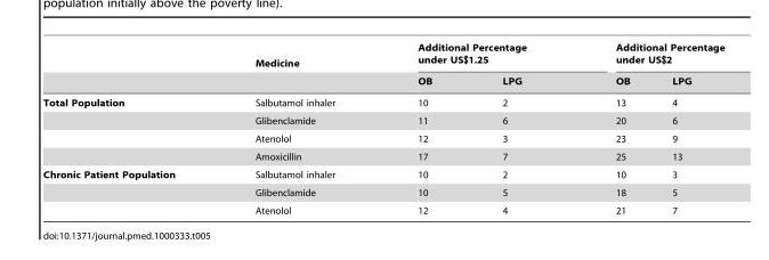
<table><thead><tr><td rowspan="2"></td><td rowspan="2">Medicine</td><td colspan="2">Additional Percentage under US$1.25</td><td colspan="2">Additional Percentage under US$2</td></tr><tr><td>OB</td><td>LPG</td><td>OB</td><td>LPG</td></tr></thead><tbody><tr><td rowspan="4">Total Population</td><td>Salbutamol inhaler</td><td>10</td><td>2</td><td>13</td><td>4</td></tr><tr><td>Glibenclamide</td><td>11</td><td>6</td><td>20</td><td>6</td></tr><tr><td>Atenolol</td><td>12</td><td>3</td><td>23</td><td>9</td></tr><tr><td>Amoxicillin</td><td>17</td><td>7</td><td>25</td><td>13</td></tr><tr><td rowspan="3">Chronic Patient Population</td><td>Salbutamol inhaler</td><td>10</td><td>2</td><td>10</td><td>3</td></tr><tr><td>Glibenclamide</td><td>10</td><td>5</td><td>18</td><td>5</td></tr><tr><td>Atenolol</td><td>12</td><td>4</td><td>21</td><td>7</td></tr></tbody></table>